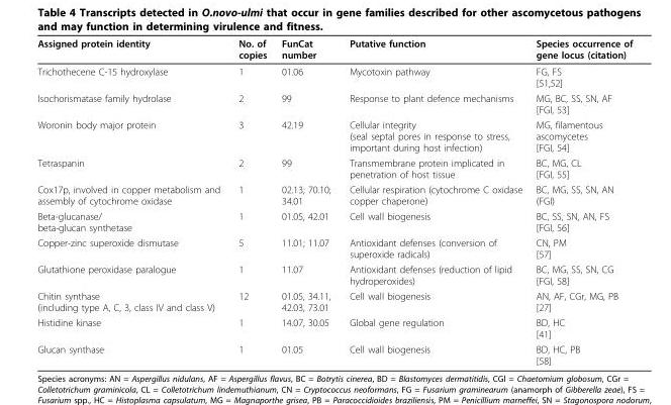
<table><thead><tr><td>Assigned protein identity</td><td>No. of copies</td><td>FunCat number</td><td>Putative function</td><td>Species occurrence of gene locus (citation)</td></tr></thead><tbody><tr><td>Trichothecene C-15 hydroxylase</td><td>1</td><td>01.06</td><td>Mycotoxin pathway</td><td>FG, FS [51,52]</td></tr><tr><td>Isochorismatase family hydrolase</td><td>2</td><td>99</td><td>Response to plant defence mechanisms</td><td>MG, BC, SS, SN, AF [FGI, 53]</td></tr><tr><td>Woronin body major protein</td><td>3</td><td>42.19</td><td>Cellular integrity (seal septal pores in response to stress, important during host infection)</td><td>MG, filamentous ascomycetes [FGI, 54]</td></tr><tr><td>Tetraspanin</td><td>2</td><td>99</td><td>Transmembrane protein implicated in penetration of host tissue</td><td>BC, MG, CL [FGI, 55]</td></tr><tr><td>Cox17p, involved in copper metabolism and assembly of cytochrome oxidase</td><td>1</td><td>02.13; 70.10; 34.01</td><td>Cellular respiration (cytochrome C oxidase copper chaperone)</td><td>BC, MG, SS, SN, AN (FGI)</td></tr><tr><td>Beta-glucanase/ beta-glucan synthetase</td><td>1</td><td>01.05, 42.01</td><td>Cell wall biogenesis</td><td>BC, SS, SN, AN, FS [FGI, 56]</td></tr><tr><td>Copper-zinc superoxide dismutase</td><td>5</td><td>11.01; 11.07</td><td>Antioxidant defenses (conversion of superoxide radicals)</td><td>CN, PM [57]</td></tr><tr><td>Glutathione peroxidase paralogue</td><td>1</td><td>11.07</td><td>Antioxidant defenses (reduction of lipid hydroperoxides)</td><td>BC, MG, SS, SN, CG [FGI, 58]</td></tr><tr><td>Chitin synthase (including type A, C, 3, class IV and class V)</td><td>12</td><td>01.05, 34.11, 42.03, 73.01</td><td>Cell wall biogenesis</td><td>AN, AF, CGr, MG, PB [27]</td></tr><tr><td>Histidine kinase</td><td>1</td><td>14.07, 30.05</td><td>Global gene regulation</td><td>BD, HC [41]</td></tr><tr><td>Glucan synthase</td><td>1</td><td>01.05</td><td>Cell wall biogenesis</td><td>BD, HC, PB [58]</td></tr></tbody></table>